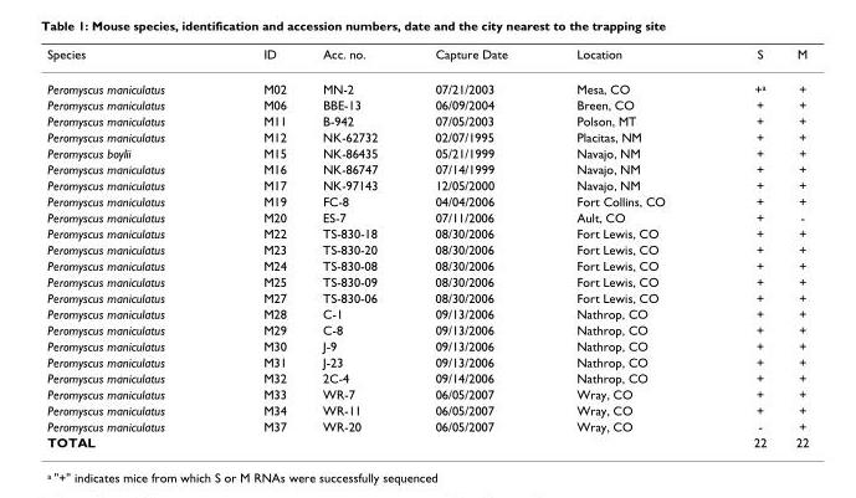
<table><thead><tr><td>Species</td><td>ID</td><td>Acc. no.</td><td>Capture Date</td><td>Location</td><td>S</td><td>M</td></tr></thead><tbody><tr><td>Peromyscus maniculatus</td><td>M02</td><td>MN-2</td><td>07/21/2003</td><td>Mesa, CO</td><td>+<sup>a</sup></td><td>+</td></tr><tr><td>Peromyscus maniculatus</td><td>M06</td><td>BBE-13</td><td>06/09/2004</td><td>Breen, CO</td><td>+</td><td>+</td></tr><tr><td>Peromyscus maniculatus</td><td>M11</td><td>B-942</td><td>07/05/2003</td><td>Polson, MT</td><td>+</td><td>+</td></tr><tr><td>Peromyscus maniculatus</td><td>M12</td><td>NK-62732</td><td>02/07/1995</td><td>Placitas, NM</td><td>+</td><td>+</td></tr><tr><td>Peromyscus boylii</td><td>M15</td><td>NK-86435</td><td>05/21/1999</td><td>Navajo, NM</td><td>+</td><td>+</td></tr><tr><td>Peromyscus maniculatus</td><td>M16</td><td>NK-86747</td><td>07/14/1999</td><td>Navajo, NM</td><td>+</td><td>+</td></tr><tr><td>Peromyscus maniculatus</td><td>M17</td><td>NK-97143</td><td>12/05/2000</td><td>Navajo, NM</td><td>+</td><td>+</td></tr><tr><td>Peromyscus maniculatus</td><td>M19</td><td>FC-8</td><td>04/04/2006</td><td>Fort Collins, CO</td><td>+</td><td>+</td></tr><tr><td>Peromyscus maniculatus</td><td>M20</td><td>ES-7</td><td>07/11/2006</td><td>Ault, CO</td><td>+</td><td>-</td></tr><tr><td>Peromyscus maniculatus</td><td>M22</td><td>TS-830-18</td><td>08/30/2006</td><td>Fort Lewis, CO</td><td>+</td><td>+</td></tr><tr><td>Peromyscus maniculatus</td><td>M23</td><td>TS-830-20</td><td>08/30/2006</td><td>Fort Lewis, CO</td><td>+</td><td>+</td></tr><tr><td>Peromyscus maniculatus</td><td>M24</td><td>TS-830-08</td><td>08/30/2006</td><td>Fort Lewis, CO</td><td>+</td><td>+</td></tr><tr><td>Peromyscus maniculatus</td><td>M25</td><td>TS-830-09</td><td>08/30/2006</td><td>Fort Lewis, CO</td><td>+</td><td>+</td></tr><tr><td>Peromyscus maniculatus</td><td>M27</td><td>TS-830-06</td><td>08/30/2006</td><td>Fort Lewis, CO</td><td>+</td><td>+</td></tr><tr><td>Peromyscus maniculatus</td><td>M28</td><td>C-1</td><td>09/13/2006</td><td>Nathrop, CO</td><td>+</td><td>+</td></tr><tr><td>Peromyscus maniculatus</td><td>M29</td><td>C-8</td><td>09/13/2006</td><td>Nathrop, CO</td><td>+</td><td>+</td></tr><tr><td>Peromyscus maniculatus</td><td>M30</td><td>J-9</td><td>09/13/2006</td><td>Nathrop, CO</td><td>+</td><td>+</td></tr><tr><td>Peromyscus maniculatus</td><td>M31</td><td>J-23</td><td>09/13/2006</td><td>Nathrop, CO</td><td>+</td><td>+</td></tr><tr><td>Peromyscus maniculatus</td><td>M32</td><td>2C-4</td><td>09/14/2006</td><td>Nathrop, CO</td><td>+</td><td>+</td></tr><tr><td>Peromyscus maniculatus</td><td>M33</td><td>WR-7</td><td>06/05/2007</td><td>Wray, CO</td><td>+</td><td>+</td></tr><tr><td>Peromyscus maniculatus</td><td>M34</td><td>WR-11</td><td>06/05/2007</td><td>Wray, CO</td><td>+</td><td>+</td></tr><tr><td>Peromyscus maniculatus</td><td>M37</td><td>WR-20</td><td>06/05/2007</td><td>Wray, CO</td><td>-</td><td>+</td></tr><tr><td>TOTAL</td><td></td><td></td><td></td><td></td><td>22</td><td>22</td></tr></tbody></table>